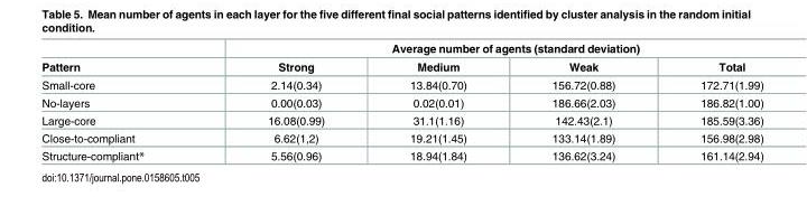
<table><thead><tr><td rowspan="2">Pattern</td><td colspan="4">Average number of agents (standard deviation)</td></tr><tr><td>Strong</td><td>Medium</td><td>Weak</td><td>Total</td></tr></thead><tbody><tr><td>Small-core</td><td>2.14(0.34)</td><td>13.84(0.70)</td><td>156.72(0.88)</td><td>172.71(1.99)</td></tr><tr><td>No-layers</td><td>0.00(0.03)</td><td>0.02(0.01)</td><td>186.66(2.03)</td><td>186.82(1.00)</td></tr><tr><td>Large-core</td><td>16.08(0.99)</td><td>31.1(1.16)</td><td>142.43(2.1)</td><td>185.59(3.36)</td></tr><tr><td>Close-to-compliant</td><td>6.62(1,2)</td><td>19.21(1.45)</td><td>133.14(1.89)</td><td>156.98(2.98)</td></tr><tr><td>Structure-compliant*</td><td>5.56(0.96)</td><td>18.94(1.84)</td><td>136.62(3.24)</td><td>161.14(2.94)</td></tr></tbody></table>